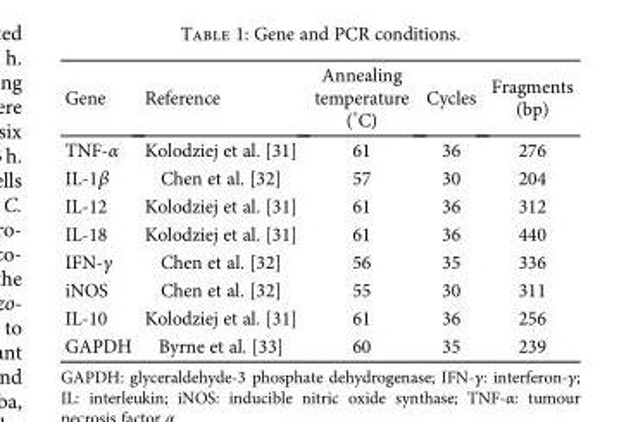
<table><thead><tr><td>Gene</td><td>Reference</td><td>Annealing temperature (°C)</td><td>Cycles</td><td>Fragments (bp)</td></tr></thead><tbody><tr><td>TNF-α</td><td>Kolodziej et al. [31]</td><td>61</td><td>36</td><td>276</td></tr><tr><td>IL-1β</td><td>Chen et al. [32]</td><td>57</td><td>30</td><td>204</td></tr><tr><td>IL-12</td><td>Kolodziej et al. [31]</td><td>61</td><td>36</td><td>312</td></tr><tr><td>IL-18</td><td>Kolodziej et al. [31]</td><td>61</td><td>36</td><td>440</td></tr><tr><td>IFN-γ</td><td>Chen et al. [32]</td><td>56</td><td>35</td><td>336</td></tr><tr><td>iNOS</td><td>Chen et al. [32]</td><td>55</td><td>30</td><td>311</td></tr><tr><td>IL-10</td><td>Kolodziej et al. [31]</td><td>61</td><td>36</td><td>256</td></tr><tr><td>GAPDH</td><td>Byrne et al. [33]</td><td>60</td><td>35</td><td>239</td></tr></tbody></table>